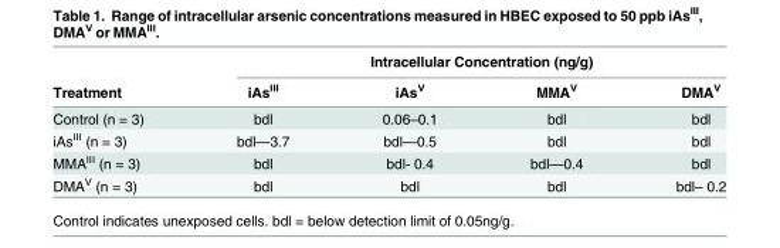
<table><thead><tr><td rowspan="2">Treatment</td><td colspan="4">Intracellular Concentration (ng/g)</td></tr><tr><td>iAs<sup>III</sup></td><td>iAs<sup>V</sup></td><td>MMA<sup>V</sup></td><td>DMA<sup>V</sup></td></tr></thead><tbody><tr><td>Control (n = 3)</td><td>bdl</td><td>0.06–0.1</td><td>bdl</td><td>bdl</td></tr><tr><td>iAs<sup>III</sup> (n = 3)</td><td>bdl—3.7</td><td>bdl—0.5</td><td>bdl</td><td>bdl</td></tr><tr><td>MMA<sup>III</sup> (n = 3)</td><td>bdl</td><td>bdl- 0.4</td><td>bdl—0.4</td><td>bdl</td></tr><tr><td>DMA<sup>V</sup> (n = 3)</td><td>bdl</td><td>bdl</td><td>bdl</td><td>bdl– 0.2</td></tr></tbody></table>